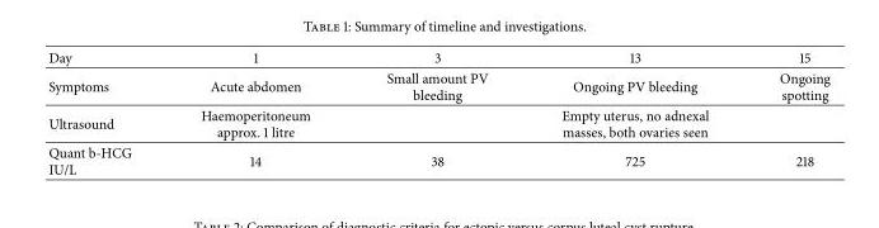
<table><thead><tr><td>Day</td><td>1</td><td>3</td><td>13</td><td>15</td></tr></thead><tbody><tr><td>Symptoms</td><td>Acute abdomen</td><td>Small amount PV bleeding</td><td>Ongoing PV bleeding</td><td>Ongoing spotting</td></tr><tr><td>Ultrasound</td><td>Haemoperitoneum approx. 1 litre</td><td></td><td>Empty uterus, no adnexal masses, both ovaries seen</td><td></td></tr><tr><td>Quant b-HCG IU/L</td><td>14</td><td>38</td><td>725</td><td>218</td></tr></tbody></table>